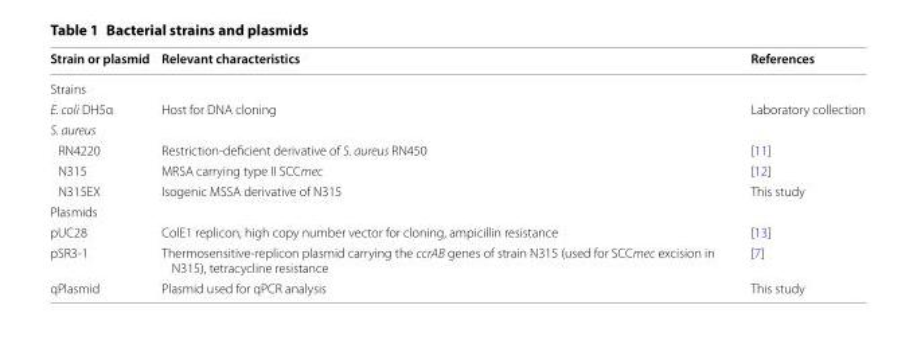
<table><thead><tr><td>Strain or plasmid</td><td>Relevant characteristics</td><td>References</td></tr></thead><tbody><tr><td colspan="3">Strains</td></tr><tr><td>E. coli DH5α</td><td>Host for DNA cloning</td><td>Laboratory collection</td></tr><tr><td colspan="3">S. aureus</td></tr><tr><td>RN4220</td><td>Restriction-deficient derivative of S. aureus RN450</td><td>[11]</td></tr><tr><td>N315</td><td>MRSA carrying type II SCCmec</td><td>[12]</td></tr><tr><td>N315EX</td><td>Isogenic MSSA derivative of N315</td><td>This study</td></tr><tr><td colspan="3">Plasmids</td></tr><tr><td>pUC28</td><td>ColE1 replicon, high copy number vector for cloning, ampicillin resistance</td><td>[13]</td></tr><tr><td>pSR3-1</td><td>Thermosensitive-replicon plasmid carrying the ccrAB genes of strain N315 (used for SCCmec excision in N315), tetracycline resistance</td><td>[7]</td></tr><tr><td>qPlasmid</td><td>Plasmid used for qPCR analysis</td><td>This study</td></tr></tbody></table>